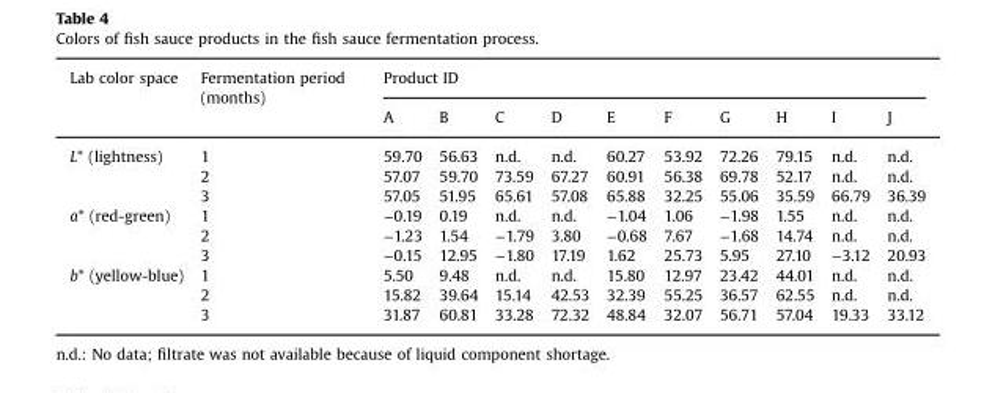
<table><thead><tr><td rowspan="2">Lab color space</td><td rowspan="2">Fermentation period (months)</td><td colspan="10">Product ID</td></tr><tr><td>A</td><td>B</td><td>C</td><td>D</td><td>E</td><td>F</td><td>G</td><td>H</td><td>I</td><td>J</td></tr></thead><tbody><tr><td rowspan="3">L* (lightness)</td><td>1</td><td>59.70</td><td>56.63</td><td>n.d.</td><td>n.d.</td><td>60.27</td><td>53.92</td><td>72.26</td><td>79.15</td><td>n.d.</td><td>n.d.</td></tr><tr><td>2</td><td>57.07</td><td>59.70</td><td>73.59</td><td>67.27</td><td>60.91</td><td>56.38</td><td>69.78</td><td>52.17</td><td>n.d.</td><td>n.d.</td></tr><tr><td>3</td><td>57.05</td><td>51.95</td><td>65.61</td><td>57.08</td><td>65.88</td><td>32.25</td><td>55.06</td><td>35.59</td><td>66.79</td><td>36.39</td></tr><tr><td rowspan="3">a* (red-green)</td><td>1</td><td>−0.19</td><td>0.19</td><td>n.d.</td><td>n.d.</td><td>−1.04</td><td>1.06</td><td>−1.98</td><td>1.55</td><td>n.d.</td><td>n.d.</td></tr><tr><td>2</td><td>−1.23</td><td>1.54</td><td>−1.79</td><td>3.80</td><td>−0.68</td><td>7.67</td><td>−1.68</td><td>14.74</td><td>n.d.</td><td>n.d.</td></tr><tr><td>3</td><td>−0.15</td><td>12.95</td><td>−1.80</td><td>17.19</td><td>1.62</td><td>25.73</td><td>5.95</td><td>27.10</td><td>−3.12</td><td>20.93</td></tr><tr><td rowspan="3">b* (yellow-blue)</td><td>1</td><td>5.50</td><td>9.48</td><td>n.d.</td><td>n.d.</td><td>15.80</td><td>12.97</td><td>23.42</td><td>44.01</td><td>n.d.</td><td>n.d.</td></tr><tr><td>2</td><td>15.82</td><td>39.64</td><td>15.14</td><td>42.53</td><td>32.39</td><td>55.25</td><td>36.57</td><td>62.55</td><td>n.d.</td><td>n.d.</td></tr><tr><td>3</td><td>31.87</td><td>60.81</td><td>33.28</td><td>72.32</td><td>48.84</td><td>32.07</td><td>56.71</td><td>57.04</td><td>19.33</td><td>33.12</td></tr></tbody></table>